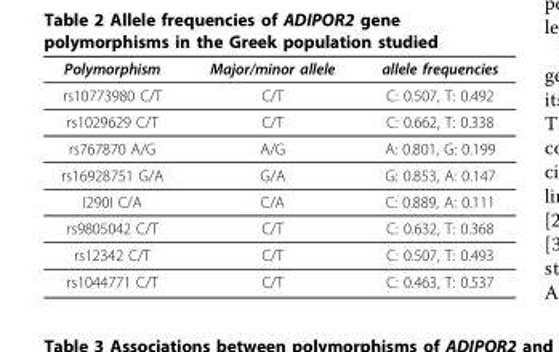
<table><thead><tr><td>Polymorphism</td><td>Major/minor allele</td><td>allele frequencies</td></tr></thead><tbody><tr><td>rs10773980 C/T</td><td>C/T</td><td>C: 0.507, T: 0.492</td></tr><tr><td>rs1029629 C/T</td><td>C/T</td><td>C: 0.662, T: 0.338</td></tr><tr><td>rs767870 A/G</td><td>A/G</td><td>A: 0.801, G: 0.199</td></tr><tr><td>rs16928751 G/A</td><td>G/A</td><td>G: 0.853, A: 0.147</td></tr><tr><td>I290I C/A</td><td>C/A</td><td>C: 0.889, A: 0.111</td></tr><tr><td>rs9805042 C/T</td><td>C/T</td><td>C: 0.632, T: 0.368</td></tr><tr><td>rs12342 C/T</td><td>C/T</td><td>C: 0.507, T: 0.493</td></tr><tr><td>rs1044771 C/T</td><td>C/T</td><td>C: 0.463, T: 0.537</td></tr></tbody></table>